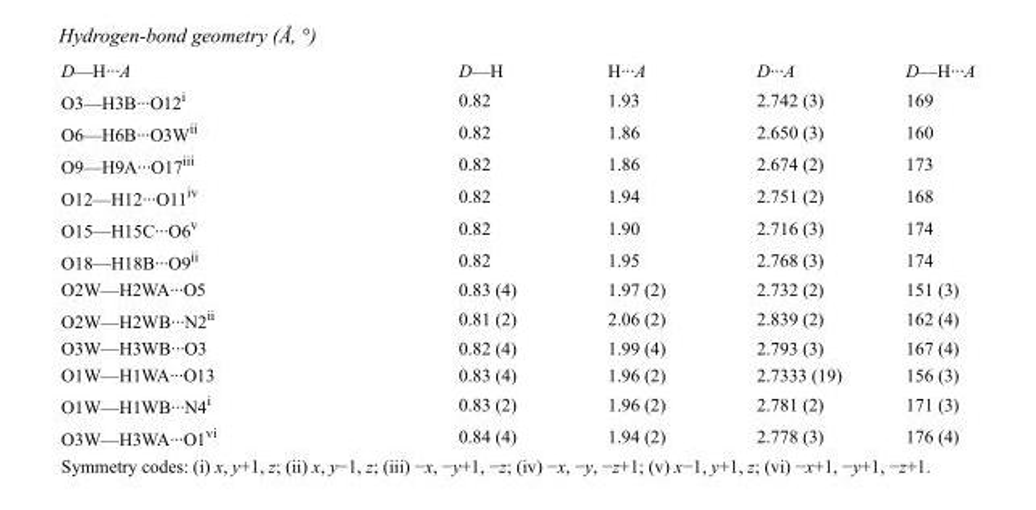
<table><tbody><tr><td>D—H···A</td><td>D—H</td><td>H···A</td><td>D···A</td><td>D—H···A</td></tr><tr><td>O3—H3B···O12<sup>i</sup></td><td>0.82</td><td>1.93</td><td>2.742 (3)</td><td>169</td></tr><tr><td>O6—H6B···O3W<sup>ii</sup></td><td>0.82</td><td>1.86</td><td>2.650 (3)</td><td>160</td></tr><tr><td>O9—H9A···O17<sup>iii</sup></td><td>0.82</td><td>1.86</td><td>2.674 (2)</td><td>173</td></tr><tr><td>O12—H12···O11<sup>iv</sup></td><td>0.82</td><td>1.94</td><td>2.751 (2)</td><td>168</td></tr><tr><td>O15—H15C···O6<sup>v</sup></td><td>0.82</td><td>1.90</td><td>2.716 (3)</td><td>174</td></tr><tr><td>O18—H18B···O9<sup>ii</sup></td><td>0.82</td><td>1.95</td><td>2.768 (3)</td><td>174</td></tr><tr><td>O2W—H2WA···O5</td><td>0.83 (4)</td><td>1.97 (2)</td><td>2.732 (2)</td><td>151 (3)</td></tr><tr><td>O2W—H2WB···N2<sup>ii</sup></td><td>0.81 (2)</td><td>2.06 (2)</td><td>2.839 (2)</td><td>162 (4)</td></tr><tr><td>O3W—H3WB···O3</td><td>0.82 (4)</td><td>1.99 (4)</td><td>2.793 (3)</td><td>167 (4)</td></tr><tr><td>O1W—H1WA···O13</td><td>0.83 (4)</td><td>1.96 (2)</td><td>2.7333 (19)</td><td>156 (3)</td></tr><tr><td>O1W—H1WB···N4<sup>i</sup></td><td>0.83 (2)</td><td>1.96 (2)</td><td>2.781 (2)</td><td>171 (3)</td></tr><tr><td>O3W—H3WA···O1<sup>vi</sup></td><td>0.84 (4)</td><td>1.94 (2)</td><td>2.778 (3)</td><td>176 (4)</td></tr></tbody></table>